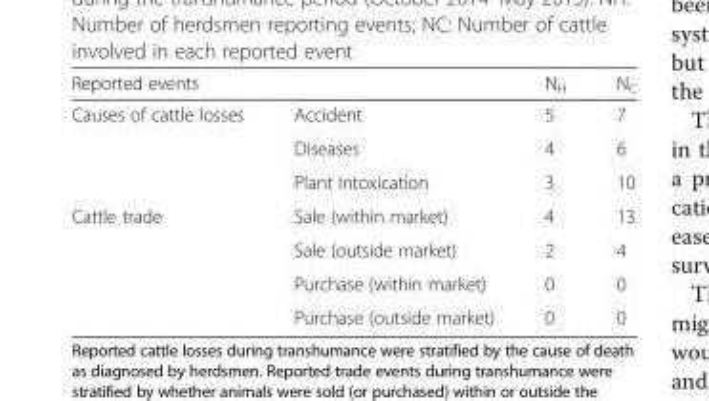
<table><thead><tr><td>Reported events</td><td></td><td>N<sub>H</sub></td><td>N<sub>C</sub></td></tr></thead><tbody><tr><td rowspan="3">Causes of cattle losses</td><td>Accident</td><td>5</td><td>7</td></tr><tr><td>Diseases</td><td>4</td><td>6</td></tr><tr><td>Plant Intoxication</td><td>3</td><td>10</td></tr><tr><td rowspan="4">Cattle trade</td><td>Sale (within market)</td><td>4</td><td>13</td></tr><tr><td>Sale (outside market)</td><td>2</td><td>4</td></tr><tr><td>Purchase (within market)</td><td>0</td><td>0</td></tr><tr><td>Purchase (outside market)</td><td>0</td><td>0</td></tr></tbody></table>